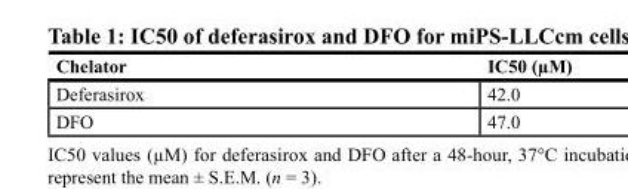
<table><thead><tr><td>Chelator</td><td>IC50 (µM)</td></tr></thead><tbody><tr><td>Deferasirox</td><td>42.0</td></tr><tr><td>DFO</td><td>47.0</td></tr></tbody></table>